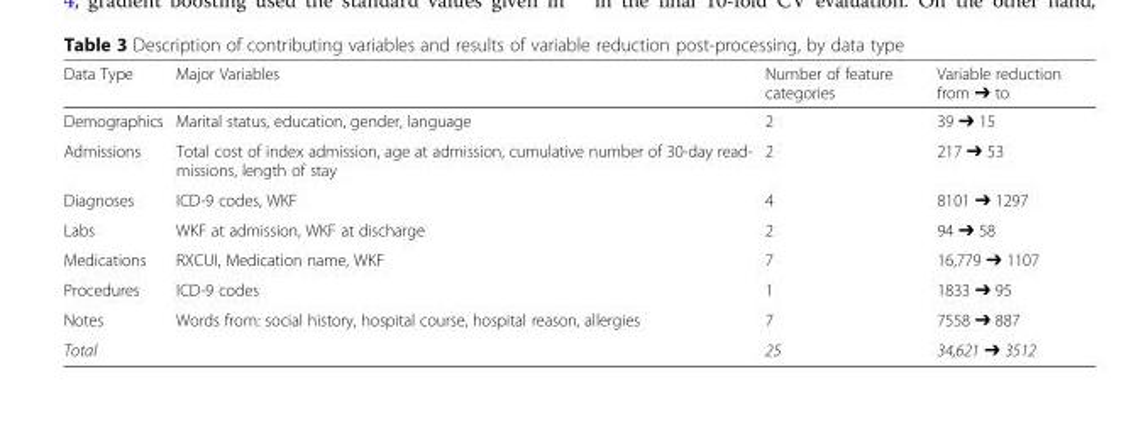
<table><thead><tr><td>Data Type</td><td>Major Variables</td><td>Number of feature categories</td><td>Variable reduction from ➔ to</td></tr></thead><tbody><tr><td>Demographics</td><td>Marital status, education, gender, language</td><td>2</td><td>39 ➔ 15</td></tr><tr><td>Admissions</td><td>Total cost of index admission, age at admission, cumulative number of 30-day read- missions, length of stay</td><td>2</td><td>217 ➔ 53</td></tr><tr><td>Diagnoses</td><td>ICD-9 codes, WKF</td><td>4</td><td>8101 ➔ 1297</td></tr><tr><td>Labs</td><td>WKF at admission, WKF at discharge</td><td>2</td><td>94 ➔ 58</td></tr><tr><td>Medications</td><td>RXCUI, Medication name, WKF</td><td>7</td><td>16,779 ➔ 1107</td></tr><tr><td>Procedures</td><td>ICD-9 codes</td><td>1</td><td>1833 ➔ 95</td></tr><tr><td>Notes</td><td>Words from: social history, hospital course, hospital reason, allergies</td><td>7</td><td>7558 ➔ 887</td></tr><tr><td>Total</td><td></td><td>25</td><td>34,621 ➔ 3512</td></tr></tbody></table>